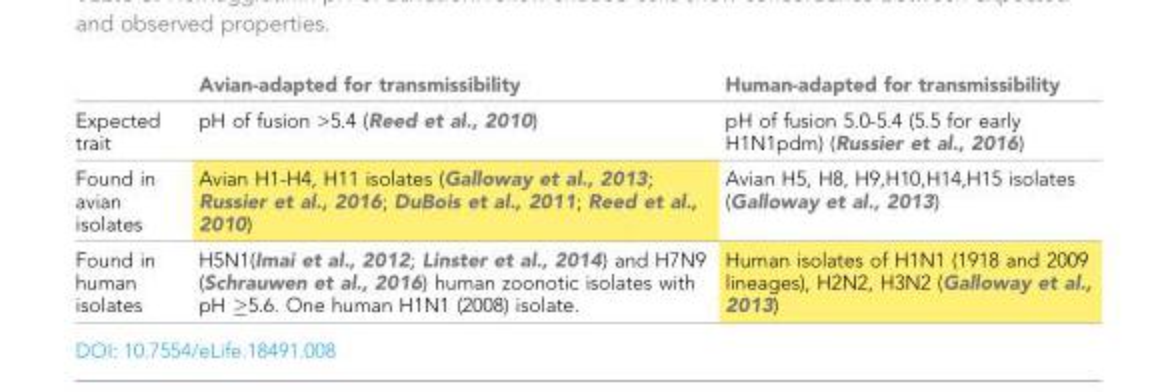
<table><thead><tr><td></td><td>Avian-adapted for transmissibility</td><td>Human-adapted for transmissibility</td></tr></thead><tbody><tr><td>Expected trait</td><td>pH of fusion &gt;5.4 (Reed et al., 2010)</td><td>pH of fusion 5.0-5.4 (5.5 for early H1N1pdm) (Russier et al., 2016)</td></tr><tr><td>Found in avian isolates</td><td>Avian H1-H4, H11 isolates (Galloway et al., 2013; Russier et al., 2016; DuBois et al., 2011; Reed et al., 2010)</td><td>Avian H5, H8, H9,H10,H14,H15 isolates (Galloway et al., 2013)</td></tr><tr><td>Found in human isolates</td><td>H5N1(Imai et al., 2012; Linster et al., 2014) and H7N9 (Schrauwen et al., 2016) human zoonotic isolates with pH ≥5.6. One human H1N1 (2008) isolate.</td><td>Human isolates of H1N1 (1918 and 2009 lineages), H2N2, H3N2 (Galloway et al., 2013)</td></tr></tbody></table>